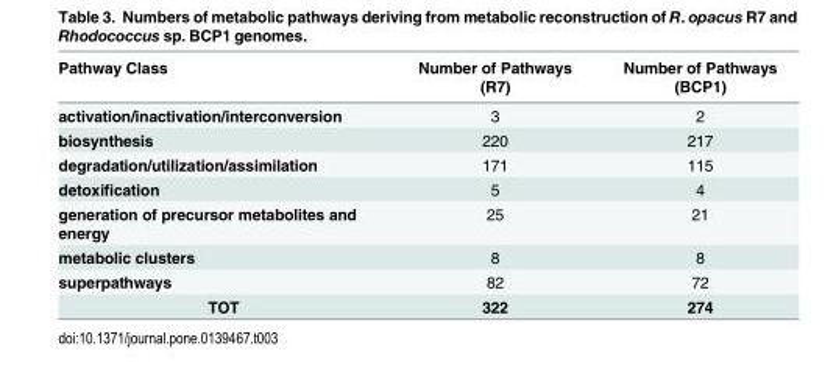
<table><thead><tr><td>Pathway Class</td><td>Number of Pathways (R7)</td><td>Number of Pathways (BCP1)</td></tr></thead><tbody><tr><td>activation/inactivation/interconversion</td><td>3</td><td>2</td></tr><tr><td>biosynthesis</td><td>220</td><td>217</td></tr><tr><td>degradation/utilization/assimilation</td><td>171</td><td>115</td></tr><tr><td>detoxification</td><td>5</td><td>4</td></tr><tr><td>generation of precursor metabolites and energy</td><td>25</td><td>21</td></tr><tr><td>metabolic clusters</td><td>8</td><td>8</td></tr><tr><td>superpathways</td><td>82</td><td>72</td></tr><tr><td>TOT</td><td>322</td><td>274</td></tr></tbody></table>